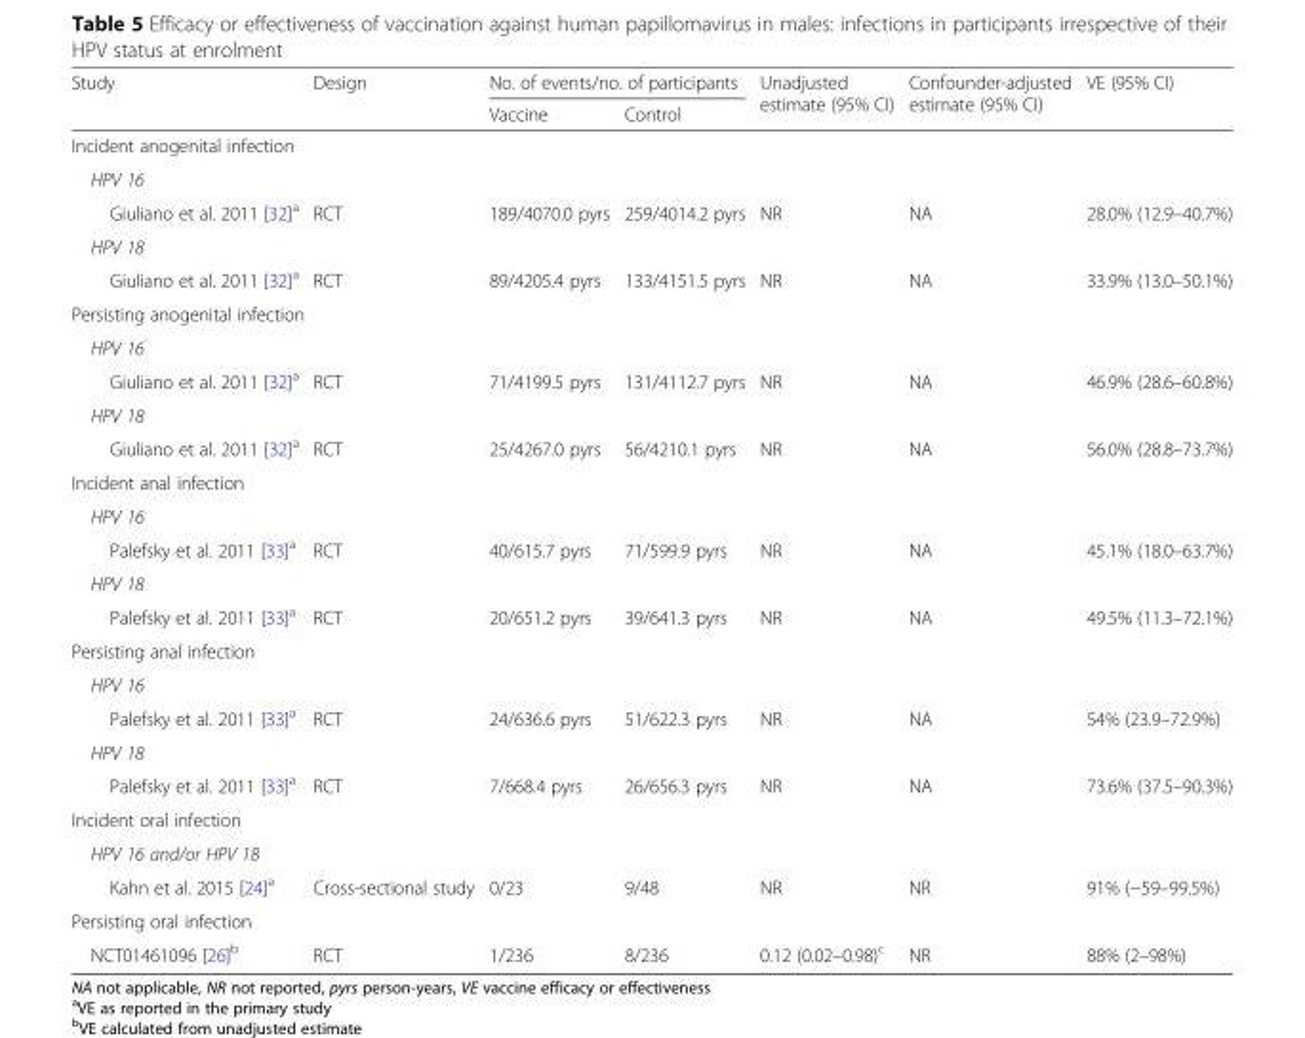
<table><thead><tr><td rowspan="2">Study</td><td rowspan="2">Design</td><td colspan="2">No. of events/no. of participants</td><td rowspan="2">Unadjusted estimate (95% CI)</td><td rowspan="2">Confounder-adjusted estimate (95% CI)</td><td rowspan="2">VE (95% CI)</td></tr><tr><td>Vaccine</td><td>Control</td></tr></thead><tbody><tr><td colspan="7">Incident anogenital infection</td></tr><tr><td colspan="7">HPV 16</td></tr><tr><td>Giuliano et al. 2011 [32]<sup>a</sup></td><td>RCT</td><td>189/4070.0 pyrs</td><td>259/4014.2 pyrs</td><td>NR</td><td>NA</td><td>28.0% (12.9–40.7%)</td></tr><tr><td colspan="7">HPV 18</td></tr><tr><td>Giuliano et al. 2011 [32]<sup>a</sup></td><td>RCT</td><td>89/4205.4 pyrs</td><td>133/4151.5 pyrs</td><td>NR</td><td>NA</td><td>33.9% (13.0–50.1%)</td></tr><tr><td colspan="7">Persisting anogenital infection</td></tr><tr><td colspan="7">HPV 16</td></tr><tr><td>Giuliano et al. 2011 [32]<sup>a</sup></td><td>RCT</td><td>71/4199.5 pyrs</td><td>131/4112.7 pyrs</td><td>NR</td><td>NA</td><td>46.9% (28.6–60.8%)</td></tr><tr><td colspan="7">HPV 18</td></tr><tr><td>Giuliano et al. 2011 [32]<sup>a</sup></td><td>RCT</td><td>25/4267.0 pyrs</td><td>56/4210.1 pyrs</td><td>NR</td><td>NA</td><td>56.0% (28.8–73.7%)</td></tr><tr><td colspan="7">Incident anal infection</td></tr><tr><td colspan="7">HPV 16</td></tr><tr><td>Palefsky et al. 2011 [33]<sup>a</sup></td><td>RCT</td><td>40/615.7 pyrs</td><td>71/599.9 pyrs</td><td>NR</td><td>NA</td><td>45.1% (18.0–63.7%)</td></tr><tr><td colspan="7">HPV 18</td></tr><tr><td>Palefsky et al. 2011 [33]<sup>a</sup></td><td>RCT</td><td>20/651.2 pyrs</td><td>39/641.3 pyrs</td><td>NR</td><td>NA</td><td>49.5% (11.3–72.1%)</td></tr><tr><td colspan="7">Persisting anal infection</td></tr><tr><td colspan="7">HPV 16</td></tr><tr><td>Palefsky et al. 2011 [33]<sup>a</sup></td><td>RCT</td><td>24/636.6 pyrs</td><td>51/622.3 pyrs</td><td>NR</td><td>NA</td><td>54% (23.9–72.9%)</td></tr><tr><td colspan="7">HPV 18</td></tr><tr><td>Palefsky et al. 2011 [33]<sup>a</sup></td><td>RCT</td><td>7/668.4 pyrs</td><td>26/656.3 pyrs</td><td>NR</td><td>NA</td><td>73.6% (37.5–90.3%)</td></tr><tr><td colspan="7">Incident oral infection</td></tr><tr><td colspan="7">HPV 16 and/or HPV 18</td></tr><tr><td>Kahn et al. 2015 [24]<sup>a</sup></td><td>Cross-sectional study</td><td>0/23</td><td>9/48</td><td>NR</td><td>NR</td><td>91% (−59–99.5%)</td></tr><tr><td colspan="7">Persisting oral infection</td></tr><tr><td>NCT01461096 [26]<sup>b</sup></td><td>RCT</td><td>1/236</td><td>8/236</td><td>0.12 (0.02–0.98)<sup>c</sup></td><td>NR</td><td>88% (2–98%)</td></tr></tbody></table>